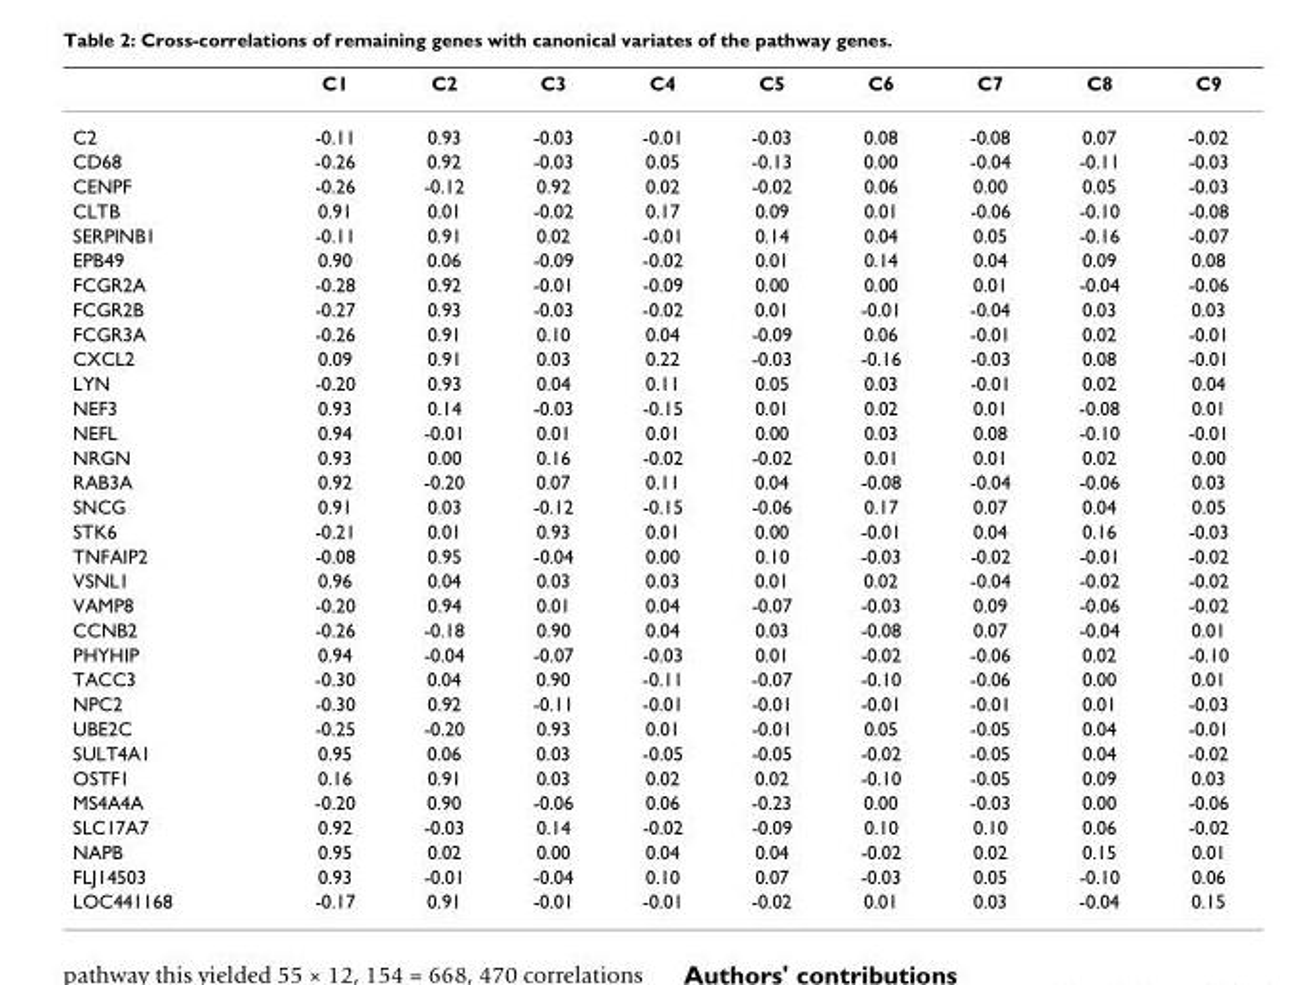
<table><thead><tr><td></td><td>C1</td><td>C2</td><td>C3</td><td>C4</td><td>C5</td><td>C6</td><td>C7</td><td>C8</td><td>C9</td></tr></thead><tbody><tr><td>C2</td><td>-0.11</td><td>0.93</td><td>-0.03</td><td>-0.01</td><td>-0.03</td><td>0.08</td><td>-0.08</td><td>0.07</td><td>-0.02</td></tr><tr><td>CD68</td><td>-0.26</td><td>0.92</td><td>-0.03</td><td>0.05</td><td>-0.13</td><td>0.00</td><td>-0.04</td><td>-0.11</td><td>-0.03</td></tr><tr><td>CENPF</td><td>-0.26</td><td>-0.12</td><td>0.92</td><td>0.02</td><td>-0.02</td><td>0.06</td><td>0.00</td><td>0.05</td><td>-0.03</td></tr><tr><td>CLTB</td><td>0.91</td><td>0.01</td><td>-0.02</td><td>0.17</td><td>0.09</td><td>0.01</td><td>-0.06</td><td>-0.10</td><td>-0.08</td></tr><tr><td>SERPINB1</td><td>-0.11</td><td>0.91</td><td>0.02</td><td>-0.01</td><td>0.14</td><td>0.04</td><td>0.05</td><td>-0.16</td><td>-0.07</td></tr><tr><td>EPB49</td><td>0.90</td><td>0.06</td><td>-0.09</td><td>-0.02</td><td>0.01</td><td>0.14</td><td>0.04</td><td>0.09</td><td>0.08</td></tr><tr><td>FCGR2A</td><td>-0.28</td><td>0.92</td><td>-0.01</td><td>-0.09</td><td>0.00</td><td>0.00</td><td>0.01</td><td>-0.04</td><td>-0.06</td></tr><tr><td>FCGR2B</td><td>-0.27</td><td>0.93</td><td>-0.03</td><td>-0.02</td><td>0.01</td><td>-0.01</td><td>-0.04</td><td>0.03</td><td>0.03</td></tr><tr><td>FCGR3A</td><td>-0.26</td><td>0.91</td><td>0.10</td><td>0.04</td><td>-0.09</td><td>0.06</td><td>-0.01</td><td>0.02</td><td>-0.01</td></tr><tr><td>CXCL2</td><td>0.09</td><td>0.91</td><td>0.03</td><td>0.22</td><td>-0.03</td><td>-0.16</td><td>-0.03</td><td>0.08</td><td>-0.01</td></tr><tr><td>LYN</td><td>-0.20</td><td>0.93</td><td>0.04</td><td>0.11</td><td>0.05</td><td>0.03</td><td>-0.01</td><td>0.02</td><td>0.04</td></tr><tr><td>NEF3</td><td>0.93</td><td>0.14</td><td>-0.03</td><td>-0.15</td><td>0.01</td><td>0.02</td><td>0.01</td><td>-0.08</td><td>0.01</td></tr><tr><td>NEFL</td><td>0.94</td><td>-0.01</td><td>0.01</td><td>0.01</td><td>0.00</td><td>0.03</td><td>0.08</td><td>-0.10</td><td>-0.01</td></tr><tr><td>NRGN</td><td>0.93</td><td>0.00</td><td>0.16</td><td>-0.02</td><td>-0.02</td><td>0.01</td><td>0.01</td><td>0.02</td><td>0.00</td></tr><tr><td>RAB3A</td><td>0.92</td><td>-0.20</td><td>0.07</td><td>0.11</td><td>0.04</td><td>-0.08</td><td>-0.04</td><td>-0.06</td><td>0.03</td></tr><tr><td>SNCG</td><td>0.91</td><td>0.03</td><td>-0.12</td><td>-0.15</td><td>-0.06</td><td>0.17</td><td>0.07</td><td>0.04</td><td>0.05</td></tr><tr><td>STK6</td><td>-0.21</td><td>0.01</td><td>0.93</td><td>0.01</td><td>0.00</td><td>-0.01</td><td>0.04</td><td>0.16</td><td>-0.03</td></tr><tr><td>TNFAIP2</td><td>-0.08</td><td>0.95</td><td>-0.04</td><td>0.00</td><td>0.10</td><td>-0.03</td><td>-0.02</td><td>-0.01</td><td>-0.02</td></tr><tr><td>VSNL1</td><td>0.96</td><td>0.04</td><td>0.03</td><td>0.03</td><td>0.01</td><td>0.02</td><td>-0.04</td><td>-0.02</td><td>-0.02</td></tr><tr><td>VAMP8</td><td>-0.20</td><td>0.94</td><td>0.01</td><td>0.04</td><td>-0.07</td><td>-0.03</td><td>0.09</td><td>-0.06</td><td>-0.02</td></tr><tr><td>CCNB2</td><td>-0.26</td><td>-0.18</td><td>0.90</td><td>0.04</td><td>0.03</td><td>-0.08</td><td>0.07</td><td>-0.04</td><td>0.01</td></tr><tr><td>PHYHIP</td><td>0.94</td><td>-0.04</td><td>-0.07</td><td>-0.03</td><td>0.01</td><td>-0.02</td><td>-0.06</td><td>0.02</td><td>-0.10</td></tr><tr><td>TACC3</td><td>-0.30</td><td>0.04</td><td>0.90</td><td>-0.11</td><td>-0.07</td><td>-0.10</td><td>-0.06</td><td>0.00</td><td>0.01</td></tr><tr><td>NPC2</td><td>-0.30</td><td>0.92</td><td>-0.11</td><td>-0.01</td><td>-0.01</td><td>-0.01</td><td>-0.01</td><td>0.01</td><td>-0.03</td></tr><tr><td>UBE2C</td><td>-0.25</td><td>-0.20</td><td>0.93</td><td>0.01</td><td>-0.01</td><td>0.05</td><td>-0.05</td><td>0.04</td><td>-0.01</td></tr><tr><td>SULT4A1</td><td>0.95</td><td>0.06</td><td>0.03</td><td>-0.05</td><td>-0.05</td><td>-0.02</td><td>-0.05</td><td>0.04</td><td>-0.02</td></tr><tr><td>OSTF1</td><td>0.16</td><td>0.91</td><td>0.03</td><td>0.02</td><td>0.02</td><td>-0.10</td><td>-0.05</td><td>0.09</td><td>0.03</td></tr><tr><td>MS4A4A</td><td>-0.20</td><td>0.90</td><td>-0.06</td><td>0.06</td><td>-0.23</td><td>0.00</td><td>-0.03</td><td>0.00</td><td>-0.06</td></tr><tr><td>SLC17A7</td><td>0.92</td><td>-0.03</td><td>0.14</td><td>-0.02</td><td>-0.09</td><td>0.10</td><td>0.10</td><td>0.06</td><td>-0.02</td></tr><tr><td>NAPB</td><td>0.95</td><td>0.02</td><td>0.00</td><td>0.04</td><td>0.04</td><td>-0.02</td><td>0.02</td><td>0.15</td><td>0.01</td></tr><tr><td>FLJ14503</td><td>0.93</td><td>-0.01</td><td>-0.04</td><td>0.10</td><td>0.07</td><td>-0.03</td><td>0.05</td><td>-0.10</td><td>0.06</td></tr><tr><td>LOC441168</td><td>-0.17</td><td>0.91</td><td>-0.01</td><td>-0.01</td><td>-0.02</td><td>0.01</td><td>0.03</td><td>-0.04</td><td>0.15</td></tr></tbody></table>